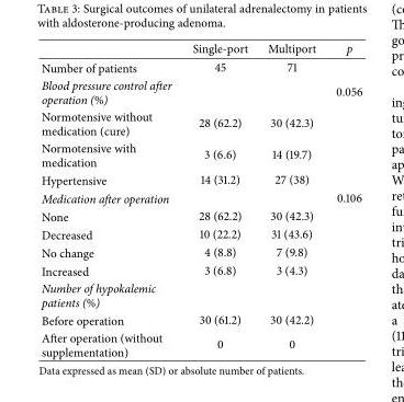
<table><thead><tr><td></td><td>Single-port</td><td>Multiport</td><td>p</td></tr></thead><tbody><tr><td>Number of patients</td><td>45</td><td>71</td><td></td></tr><tr><td>Blood pressure control after operation (%)</td><td></td><td></td><td>0.056</td></tr><tr><td>Normotensive without medication (cure)</td><td>28 (62.2)</td><td>30 (42.3)</td><td></td></tr><tr><td>Normotensive with medication</td><td>3 (6.6)</td><td>14 (19.7)</td><td></td></tr><tr><td>Hypertensive</td><td>14 (31.2)</td><td>27 (38)</td><td></td></tr><tr><td>Medication after operation</td><td></td><td></td><td>0.106</td></tr><tr><td>None</td><td>28 (62.2)</td><td>30 (42.3)</td><td></td></tr><tr><td>Decreased</td><td>10 (22.2)</td><td>31 (43.6)</td><td></td></tr><tr><td>No change</td><td>4 (8.8)</td><td>7 (9.8)</td><td></td></tr><tr><td>Increased</td><td>3 (6.8)</td><td>3 (4.3)</td><td></td></tr><tr><td colspan="4">Number of hypokalemic patients (%)</td></tr><tr><td>Before operation</td><td>30 (61.2)</td><td>30 (42.2)</td><td></td></tr><tr><td>After operation (without supplementation)</td><td>0</td><td>0</td><td></td></tr></tbody></table>